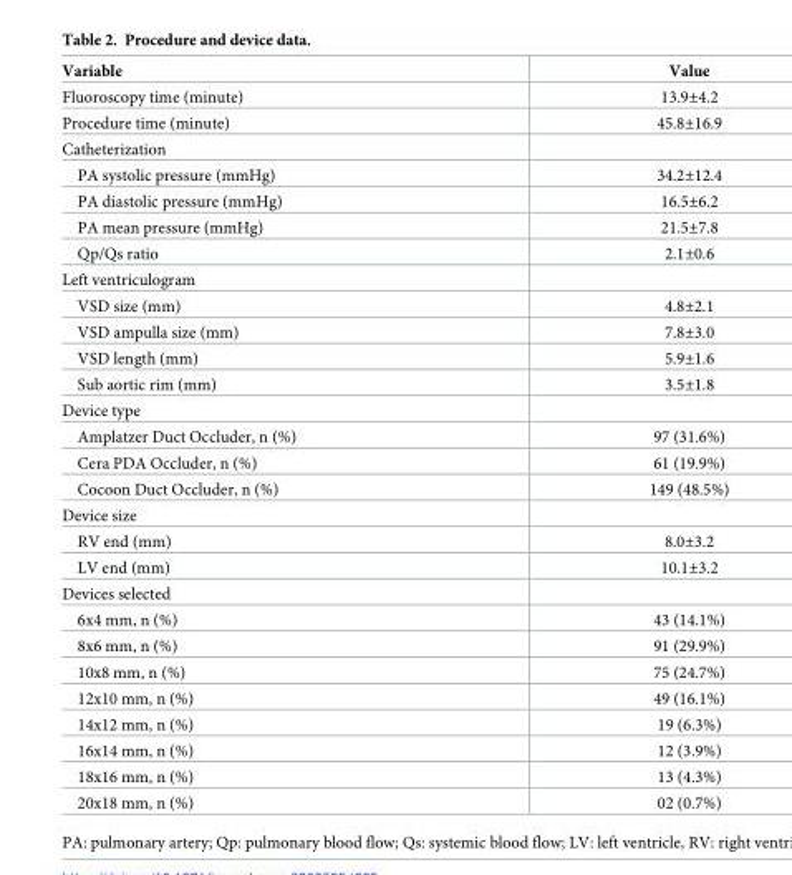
<table><thead><tr><td>Variable</td><td>Value</td></tr></thead><tbody><tr><td>Fluoroscopy time (minute)</td><td>13.9±4.2</td></tr><tr><td>Procedure time (minute)</td><td>45.8±16.9</td></tr><tr><td colspan="2">Catheterization</td></tr><tr><td>PA systolic pressure (mmHg)</td><td>34.2±12.4</td></tr><tr><td>PA diastolic pressure (mmHg)</td><td>16.5±6.2</td></tr><tr><td>PA mean pressure (mmHg)</td><td>21.5±7.8</td></tr><tr><td>Qp/Qs ratio</td><td>2.1±0.6</td></tr><tr><td colspan="2">Left ventriculogram</td></tr><tr><td>VSD size (mm)</td><td>4.8±2.1</td></tr><tr><td>VSD ampulla size (mm)</td><td>7.8±3.0</td></tr><tr><td>VSD length (mm)</td><td>5.9±1.6</td></tr><tr><td>Sub aortic rim (mm)</td><td>3.5±1.8</td></tr><tr><td colspan="2">Device type</td></tr><tr><td>Amplatzer Duct Occluder, n (%)</td><td>97 (31.6%)</td></tr><tr><td>Cera PDA Occluder, n (%)</td><td>61 (19.9%)</td></tr><tr><td>Cocoon Duct Occluder, n (%)</td><td>149 (48.5%)</td></tr><tr><td colspan="2">Device size</td></tr><tr><td>RV end (mm)</td><td>8.0±3.2</td></tr><tr><td>LV end (mm)</td><td>10.1±3.2</td></tr><tr><td colspan="2">Devices selected</td></tr><tr><td>6x4 mm, n (%)</td><td>43 (14.1%)</td></tr><tr><td>8x6 mm, n (%)</td><td>91 (29.9%)</td></tr><tr><td>10x8 mm, n (%)</td><td>75 (24.7%)</td></tr><tr><td>12x10 mm, n (%)</td><td>49 (16.1%)</td></tr><tr><td>14x12 mm, n (%)</td><td>19 (6.3%)</td></tr><tr><td>16x14 mm, n (%)</td><td>12 (3.9%)</td></tr><tr><td>18x16 mm, n (%)</td><td>13 (4.3%)</td></tr><tr><td>20x18 mm, n (%)</td><td>02 (0.7%)</td></tr></tbody></table>